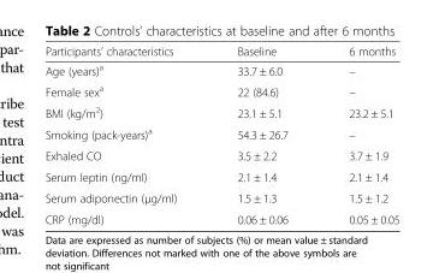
<table><thead><tr><td>Participants’ characteristics</td><td>Baseline</td><td>6 months</td></tr></thead><tbody><tr><td>Age (years)<sup>a</sup></td><td>33.7 ± 6.0</td><td>–</td></tr><tr><td>Female sex<sup>a</sup></td><td>22 (84.6)</td><td>–</td></tr><tr><td>BMI (kg/m<sup>2</sup>)</td><td>23.1 ± 5.1</td><td>23.2 ± 5.1</td></tr><tr><td>Smoking (pack-years)<sup>a</sup></td><td>54.3 ± 26.7</td><td>–</td></tr><tr><td>Exhaled CO</td><td>3.5 ± 2.2</td><td>3.7 ± 1.9</td></tr><tr><td>Serum leptin (ng/ml)</td><td>2.1 ± 1.4</td><td>2.1 ± 1.4</td></tr><tr><td>Serum adiponectin (μg/ml)</td><td>1.5 ± 1.3</td><td>1.5 ± 1.2</td></tr><tr><td>CRP (mg/dl)</td><td>0.06 ± 0.06</td><td>0.05 ± 0.05</td></tr></tbody></table>